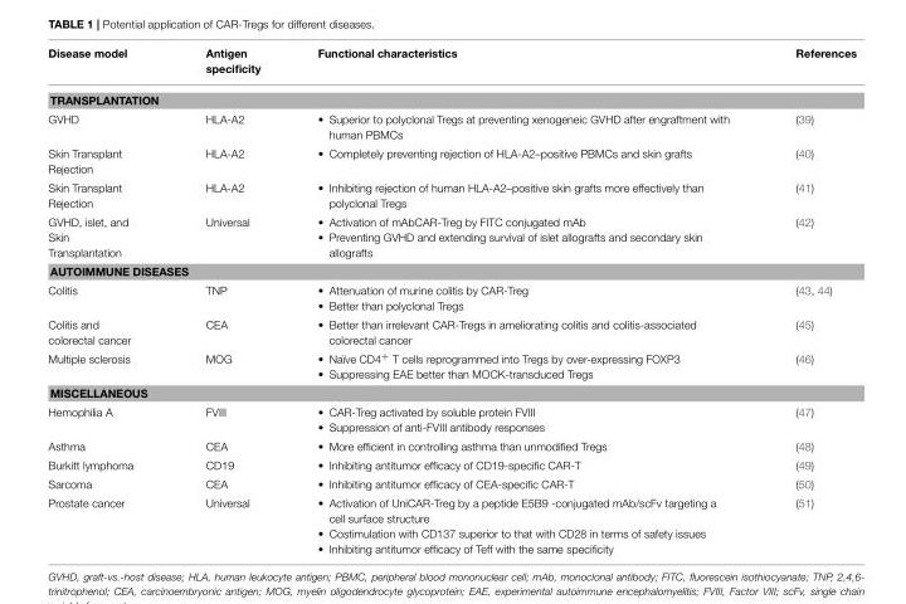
<table><thead><tr><td>Disease model</td><td>Antigen specificity</td><td>Functional characteristics</td><td>References</td></tr></thead><tbody><tr><td colspan="4">TRANSPLANTATION</td></tr><tr><td>GVHD</td><td>HLA-A2</td><td>• Superior to polyclonal Tregs at preventing xenogeneic GVHD after engraftment with human PBMCs</td><td>(39)</td></tr><tr><td>Skin Transplant Rejection</td><td>HLA-A2</td><td>• Completely preventing rejection of HLA-A2–positive PBMCs and skin grafts</td><td>(40)</td></tr><tr><td>Skin Transplant Rejection</td><td>HLA-A2</td><td>• Inhibiting rejection of human HLA-A2–positive skin grafts more effectively than polyclonal Tregs</td><td>(41)</td></tr><tr><td>GVHD, islet, and Skin Transplantation</td><td>Universal</td><td>• Activation of mAbCAR-Treg by FITC conjugated mAb • Preventing GVHD and extending survival of islet allografts and secondary skin allografts</td><td>(42)</td></tr><tr><td colspan="4">AUTOIMMUNE DISEASES</td></tr><tr><td>Colitis</td><td>TNP</td><td>• Attenuation of murine colitis by CAR-Treg • Better than polyclonal Tregs</td><td>(43, 44)</td></tr><tr><td>Colitis and colorectal cancer</td><td>CEA</td><td>• Better than irrelevant CAR-Tregs in ameliorating colitis and colitis-associated colorectal cancer</td><td>(45)</td></tr><tr><td>Multiple sclerosis</td><td>MOG</td><td>• Naïve CD4+ T cells reprogrammed into Tregs by over-expressing FOXP3 • Suppressing EAE better than MOCK-transduced Tregs</td><td>(46)</td></tr><tr><td colspan="4">MISCELLANEOUS</td></tr><tr><td>Hemophilia A</td><td>FVIII</td><td>• CAR-Treg activated by soluble protein FVIII • Suppression of anti-FVIII antibody responses</td><td>(47)</td></tr><tr><td>Asthma</td><td>CEA</td><td>• More efficient in controlling asthma than unmodified Tregs</td><td>(48)</td></tr><tr><td>Burkitt lymphoma</td><td>CD19</td><td>• Inhibiting antitumor efficacy of CD19-specific CAR-T</td><td>(49)</td></tr><tr><td>Sarcoma</td><td>CEA</td><td>• Inhibiting antitumor efficacy of CEA-specific CAR-T</td><td>(50)</td></tr><tr><td>Prostate cancer</td><td>Universal</td><td>• Activation of UniCAR-Treg by a peptide E5B9 -conjugated mAb/scFv targeting a cell surface structure • Costimulation with CD137 superior to that with CD28 in terms of safety issues • Inhibiting antitumor efficacy of Teff with the same specificity</td><td>(51)</td></tr></tbody></table>